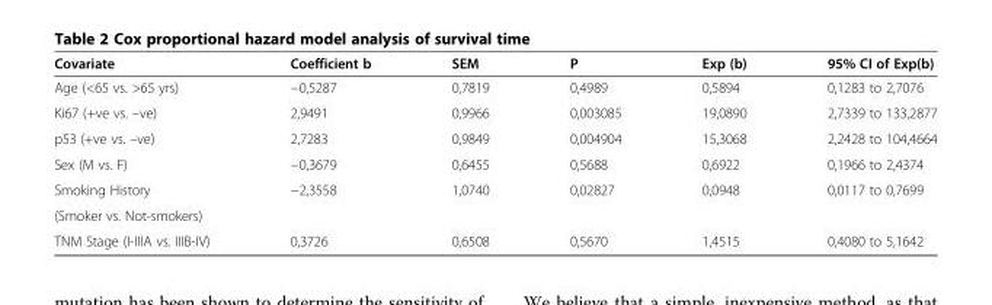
<table><thead><tr><td>Covariate</td><td>Coefficient b</td><td>SEM</td><td>P</td><td>Exp (b)</td><td>95% CI of Exp(b)</td></tr></thead><tbody><tr><td>Age (&lt;65 vs. &gt;65 yrs)</td><td>−0,5287</td><td>0,7819</td><td>0,4989</td><td>0,5894</td><td>0,1283 to 2,7076</td></tr><tr><td>Ki67 (+ve vs. –ve)</td><td>2,9491</td><td>0,9966</td><td>0,003085</td><td>19,0890</td><td>2,7339 to 133,2877</td></tr><tr><td>p53 (+ve vs. –ve)</td><td>2,7283</td><td>0,9849</td><td>0,004904</td><td>15,3068</td><td>2,2428 to 104,4664</td></tr><tr><td>Sex (M vs. F)</td><td>−0,3679</td><td>0,6455</td><td>0,5688</td><td>0,6922</td><td>0,1966 to 2,4374</td></tr><tr><td>Smoking History</td><td>−2,3558</td><td>1,0740</td><td>0,02827</td><td>0,0948</td><td>0,0117 to 0,7699</td></tr><tr><td colspan="6">(Smoker vs. Not-smokers)</td></tr><tr><td>TNM Stage (I-IIIA vs. IIIB-IV)</td><td>0,3726</td><td>0,6508</td><td>0,5670</td><td>1,4515</td><td>0,4080 to 5,1642</td></tr></tbody></table>